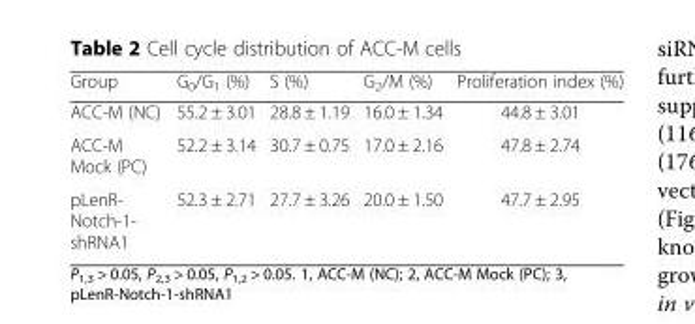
<table><thead><tr><td>Group</td><td>G<sub>0</sub>/G<sub>1</sub> (%)</td><td>S (%)</td><td>G<sub>2</sub>/M (%)</td><td>Proliferation index (%)</td></tr></thead><tbody><tr><td>ACC-M (NC)</td><td>55.2 ± 3.01</td><td>28.8 ± 1.19</td><td>16.0 ± 1.34</td><td>44.8 ± 3.01</td></tr><tr><td>ACC-M Mock (PC)</td><td>52.2 ± 3.14</td><td>30.7 ± 0.75</td><td>17.0 ± 2.16</td><td>47.8 ± 2.74</td></tr><tr><td>pLenR- Notch-1- shRNA1</td><td>52.3 ± 2.71</td><td>27.7 ± 3.26</td><td>20.0 ± 1.50</td><td>47.7 ± 2.95</td></tr></tbody></table>